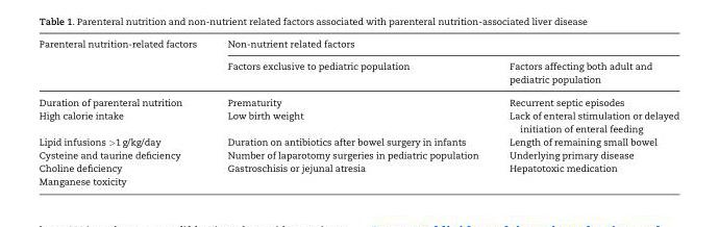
<table><thead><tr><td rowspan="2">Parenteral nutrition-related factors</td><td colspan="2">Non-nutrient related factors</td></tr><tr><td>Factors exclusive to pediatric population</td><td>Factors affecting both adult and pediatric population</td></tr></thead><tbody><tr><td>Duration of parenteral nutrition</td><td>Prematurity</td><td>Recurrent septic episodes</td></tr><tr><td>High calorie intake</td><td>Low birth weight</td><td>Lack of enteral stimulation or delayed initiation of enteral feeding</td></tr><tr><td>Lipid infusions &gt;1 g/kg/day</td><td>Duration on antibiotics after bowel surgery in infants</td><td>Length of remaining small bowel</td></tr><tr><td>Cysteine and taurine deficiency</td><td>Number of laparotomy surgeries in pediatric population</td><td>Underlying primary disease</td></tr><tr><td>Choline deficiency</td><td>Gastroschisis or jejunal atresia</td><td>Hepatotoxic medication</td></tr><tr><td>Manganese toxicity</td><td></td><td></td></tr></tbody></table>